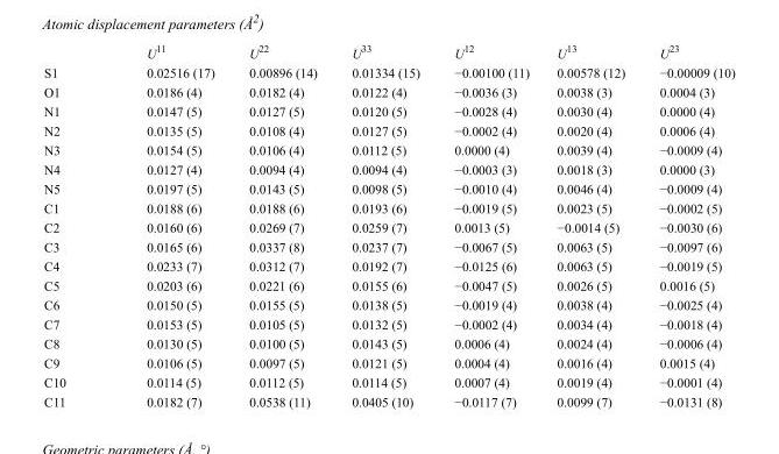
<table><thead><tr><td></td><td>U<sup>11</sup></td><td>U<sup>22</sup></td><td>U<sup>33</sup></td><td>U<sup>12</sup></td><td>U<sup>13</sup></td><td>U<sup>23</sup></td></tr></thead><tbody><tr><td>S1</td><td>0.02516 (17)</td><td>0.00896 (14)</td><td>0.01334 (15)</td><td>−0.00100 (11)</td><td>0.00578 (12)</td><td>−0.00009 (10)</td></tr><tr><td>O1</td><td>0.0186 (4)</td><td>0.0182 (4)</td><td>0.0122 (4)</td><td>−0.0036 (3)</td><td>0.0038 (3)</td><td>0.0004 (3)</td></tr><tr><td>N1</td><td>0.0147 (5)</td><td>0.0127 (5)</td><td>0.0120 (5)</td><td>−0.0028 (4)</td><td>0.0030 (4)</td><td>0.0000 (4)</td></tr><tr><td>N2</td><td>0.0135 (5)</td><td>0.0108 (4)</td><td>0.0127 (5)</td><td>−0.0002 (4)</td><td>0.0020 (4)</td><td>0.0006 (4)</td></tr><tr><td>N3</td><td>0.0154 (5)</td><td>0.0106 (4)</td><td>0.0112 (5)</td><td>0.0000 (4)</td><td>0.0039 (4)</td><td>−0.0009 (4)</td></tr><tr><td>N4</td><td>0.0127 (4)</td><td>0.0094 (4)</td><td>0.0094 (4)</td><td>−0.0003 (3)</td><td>0.0018 (3)</td><td>0.0000 (3)</td></tr><tr><td>N5</td><td>0.0197 (5)</td><td>0.0143 (5)</td><td>0.0098 (5)</td><td>−0.0010 (4)</td><td>0.0046 (4)</td><td>−0.0009 (4)</td></tr><tr><td>C1</td><td>0.0188 (6)</td><td>0.0188 (6)</td><td>0.0193 (6)</td><td>−0.0019 (5)</td><td>0.0023 (5)</td><td>−0.0002 (5)</td></tr><tr><td>C2</td><td>0.0160 (6)</td><td>0.0269 (7)</td><td>0.0259 (7)</td><td>0.0013 (5)</td><td>−0.0014 (5)</td><td>−0.0030 (6)</td></tr><tr><td>C3</td><td>0.0165 (6)</td><td>0.0337 (8)</td><td>0.0237 (7)</td><td>−0.0067 (5)</td><td>0.0063 (5)</td><td>−0.0097 (6)</td></tr><tr><td>C4</td><td>0.0233 (7)</td><td>0.0312 (7)</td><td>0.0192 (7)</td><td>−0.0125 (6)</td><td>0.0063 (5)</td><td>−0.0019 (5)</td></tr><tr><td>C5</td><td>0.0203 (6)</td><td>0.0221 (6)</td><td>0.0155 (6)</td><td>−0.0047 (5)</td><td>0.0026 (5)</td><td>0.0016 (5)</td></tr><tr><td>C6</td><td>0.0150 (5)</td><td>0.0155 (5)</td><td>0.0138 (5)</td><td>−0.0019 (4)</td><td>0.0038 (4)</td><td>−0.0025 (4)</td></tr><tr><td>C7</td><td>0.0153 (5)</td><td>0.0105 (5)</td><td>0.0132 (5)</td><td>−0.0002 (4)</td><td>0.0034 (4)</td><td>−0.0018 (4)</td></tr><tr><td>C8</td><td>0.0130 (5)</td><td>0.0100 (5)</td><td>0.0143 (5)</td><td>0.0006 (4)</td><td>0.0024 (4)</td><td>−0.0006 (4)</td></tr><tr><td>C9</td><td>0.0106 (5)</td><td>0.0097 (5)</td><td>0.0121 (5)</td><td>0.0004 (4)</td><td>0.0016 (4)</td><td>0.0015 (4)</td></tr><tr><td>C10</td><td>0.0114 (5)</td><td>0.0112 (5)</td><td>0.0114 (5)</td><td>0.0007 (4)</td><td>0.0019 (4)</td><td>−0.0001 (4)</td></tr><tr><td>C11</td><td>0.0182 (7)</td><td>0.0538 (11)</td><td>0.0405 (10)</td><td>−0.0117 (7)</td><td>0.0099 (7)</td><td>−0.0131 (8)</td></tr></tbody></table>